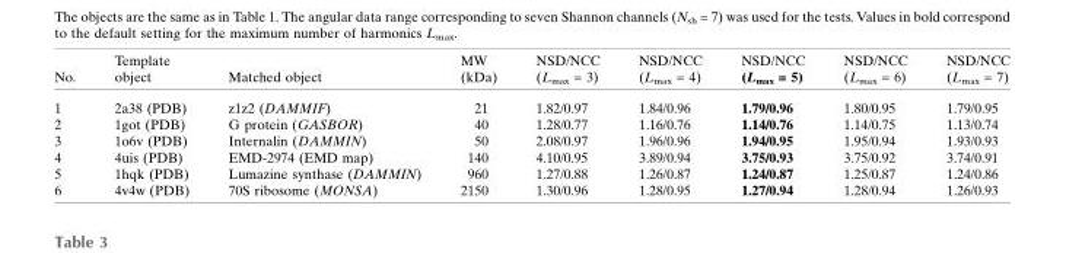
<table><thead><tr><td>No.</td><td>Template object</td><td>Matched object</td><td>MW (kDa)</td><td>NSD/NCC (L<sub>max</sub> = 3)</td><td>NSD/NCC (L<sub>max</sub> = 4)</td><td>NSD/NCC (L<sub>max</sub> = 5)</td><td>NSD/NCC (L<sub>max</sub> = 6)</td><td>NSD/NCC (L<sub>max</sub> = 7)</td></tr></thead><tbody><tr><td>1</td><td>2a38 (PDB)</td><td>z1z2 (DAMMIF)</td><td>21</td><td>1.82/0.97</td><td>1.84/0.96</td><td>1.79/0.96</td><td>1.80/0.95</td><td>1.79/0.95</td></tr><tr><td>2</td><td>1got (PDB)</td><td>G protein (GASBOR)</td><td>40</td><td>1.28/0.77</td><td>1.16/0.76</td><td>1.14/0.76</td><td>1.14/0.75</td><td>1.13/0.74</td></tr><tr><td>3</td><td>1o6v (PDB)</td><td>Internalin (DAMMIN)</td><td>50</td><td>2.08/0.97</td><td>1.96/0.96</td><td>1.94/0.95</td><td>1.95/0.94</td><td>1.93/0.93</td></tr><tr><td>4</td><td>4uis (PDB)</td><td>EMD-2974 (EMD map)</td><td>140</td><td>4.10/0.95</td><td>3.89/0.94</td><td>3.75/0.93</td><td>3.75/0.92</td><td>3.74/0.91</td></tr><tr><td>5</td><td>1hqk (PDB)</td><td>Lumazine synthase (DAMMIN)</td><td>960</td><td>1.27/0.88</td><td>1.26/0.87</td><td>1.24/0.87</td><td>1.25/0.87</td><td>1.24/0.86</td></tr><tr><td>6</td><td>4v4w (PDB)</td><td>70S ribosome (MONSA)</td><td>2150</td><td>1.30/0.96</td><td>1.28/0.95</td><td>1.27/0.94</td><td>1.28/0.94</td><td>1.26/0.93</td></tr></tbody></table>